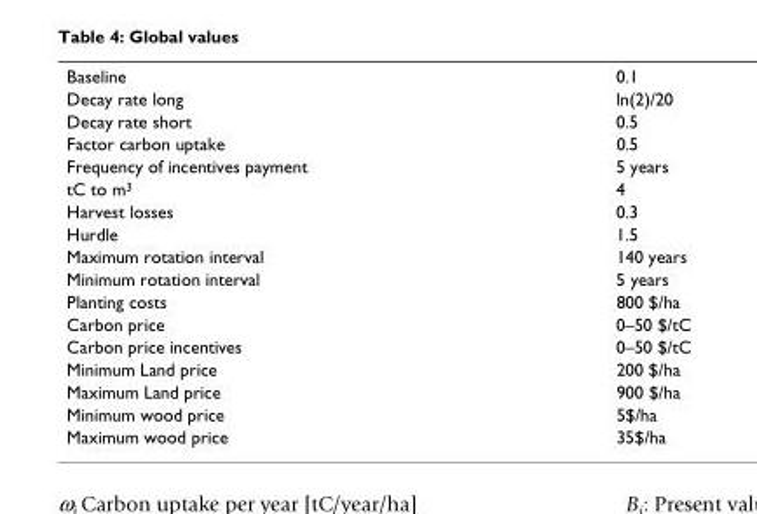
<table><tbody><tr><td>Baseline</td><td>0.1</td></tr><tr><td>Decay rate long</td><td>ln(2)/20</td></tr><tr><td>Decay rate short</td><td>0.5</td></tr><tr><td>Factor carbon uptake</td><td>0.5</td></tr><tr><td>Frequency of incentives payment</td><td>5 years</td></tr><tr><td>tC to m<sup>3</sup></td><td>4</td></tr><tr><td>Harvest losses</td><td>0.3</td></tr><tr><td>Hurdle</td><td>1.5</td></tr><tr><td>Maximum rotation interval</td><td>140 years</td></tr><tr><td>Minimum rotation interval</td><td>5 years</td></tr><tr><td>Planting costs</td><td>800 $/ha</td></tr><tr><td>Carbon price</td><td>0–50 $/tC</td></tr><tr><td>Carbon price incentives</td><td>0–50 $/tC</td></tr><tr><td>Minimum Land price</td><td>200 $/ha</td></tr><tr><td>Maximum Land price</td><td>900 $/ha</td></tr><tr><td>Minimum wood price</td><td>5$/ha</td></tr><tr><td>Maximum wood price</td><td>35$/ha</td></tr></tbody></table>